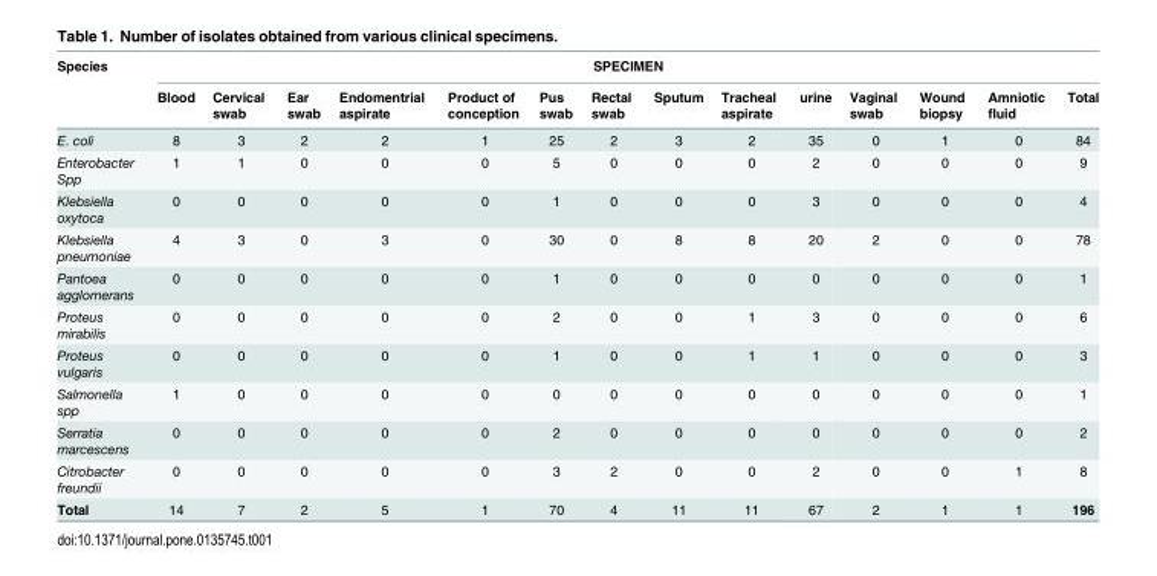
<table><thead><tr><td rowspan="2">Species</td><td colspan="14">SPECIMEN</td></tr><tr><td>Blood</td><td>Cervical swab</td><td>Ear swab</td><td>Endomentrial aspirate</td><td>Product of conception</td><td>Pus swab</td><td>Rectal swab</td><td>Sputum</td><td>Tracheal aspirate</td><td>urine</td><td>Vaginal swab</td><td>Wound biopsy</td><td>Amniotic fluid</td><td>Total</td></tr></thead><tbody><tr><td>E. coli</td><td>8</td><td>3</td><td>2</td><td>2</td><td>1</td><td>25</td><td>2</td><td>3</td><td>2</td><td>35</td><td>0</td><td>1</td><td>0</td><td>84</td></tr><tr><td>Enterobacter Spp</td><td>1</td><td>1</td><td>0</td><td>0</td><td>0</td><td>5</td><td>0</td><td>0</td><td>0</td><td>2</td><td>0</td><td>0</td><td>0</td><td>9</td></tr><tr><td>Klebsiella oxytoca</td><td>0</td><td>0</td><td>0</td><td>0</td><td>0</td><td>1</td><td>0</td><td>0</td><td>0</td><td>3</td><td>0</td><td>0</td><td>0</td><td>4</td></tr><tr><td>Klebsiella pneumoniae</td><td>4</td><td>3</td><td>0</td><td>3</td><td>0</td><td>30</td><td>0</td><td>8</td><td>8</td><td>20</td><td>2</td><td>0</td><td>0</td><td>78</td></tr><tr><td>Pantoea agglomerans</td><td>0</td><td>0</td><td>0</td><td>0</td><td>0</td><td>1</td><td>0</td><td>0</td><td>0</td><td>0</td><td>0</td><td>0</td><td>0</td><td>1</td></tr><tr><td>Proteus mirabilis</td><td>0</td><td>0</td><td>0</td><td>0</td><td>0</td><td>2</td><td>0</td><td>0</td><td>1</td><td>3</td><td>0</td><td>0</td><td>0</td><td>6</td></tr><tr><td>Proteus vulgaris</td><td>0</td><td>0</td><td>0</td><td>0</td><td>0</td><td>1</td><td>0</td><td>0</td><td>1</td><td>1</td><td>0</td><td>0</td><td>0</td><td>3</td></tr><tr><td>Salmonella spp</td><td>1</td><td>0</td><td>0</td><td>0</td><td>0</td><td>0</td><td>0</td><td>0</td><td>0</td><td>0</td><td>0</td><td>0</td><td>0</td><td>1</td></tr><tr><td>Serratia marcescens</td><td>0</td><td>0</td><td>0</td><td>0</td><td>0</td><td>2</td><td>0</td><td>0</td><td>0</td><td>0</td><td>0</td><td>0</td><td>0</td><td>2</td></tr><tr><td>Citrobacter freundii</td><td>0</td><td>0</td><td>0</td><td>0</td><td>0</td><td>3</td><td>2</td><td>0</td><td>0</td><td>2</td><td>0</td><td>0</td><td>1</td><td>8</td></tr><tr><td>Total</td><td>14</td><td>7</td><td>2</td><td>5</td><td>1</td><td>70</td><td>4</td><td>11</td><td>11</td><td>67</td><td>2</td><td>1</td><td>1</td><td>196</td></tr></tbody></table>